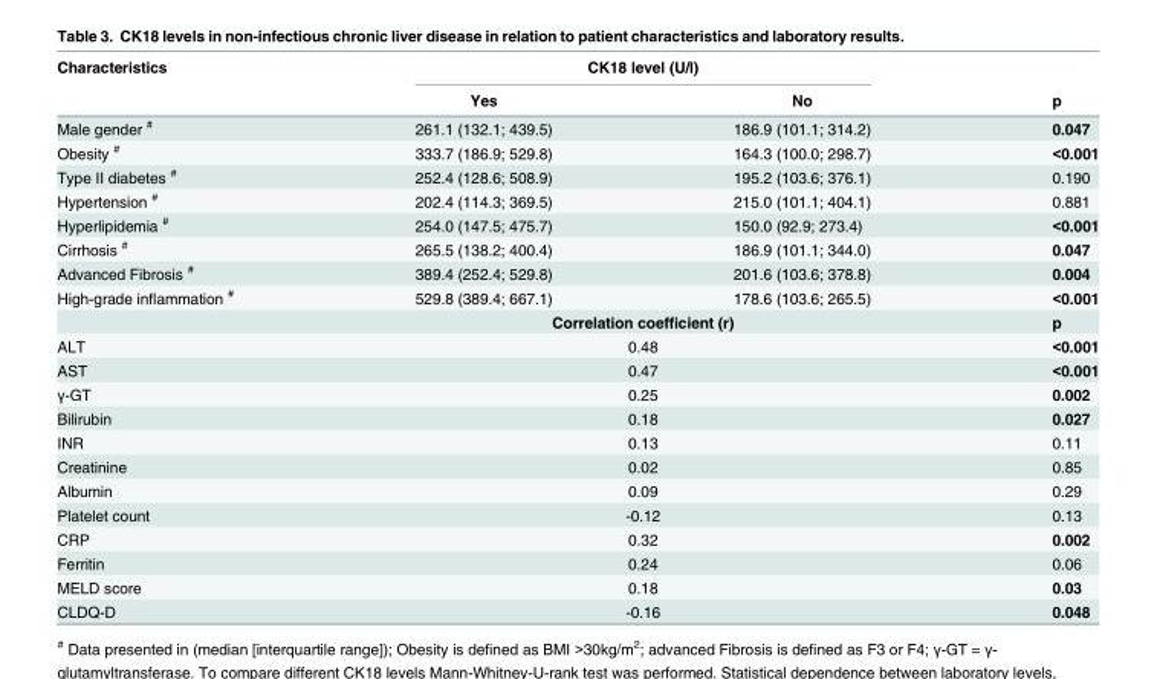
<table><thead><tr><td rowspan="2">Characteristics</td><td colspan="2">CK18 level (U/l)</td><td rowspan="2">p</td></tr><tr><td>Yes</td><td>No</td></tr></thead><tbody><tr><td>Male gender <sup>#</sup></td><td>261.1 (132.1; 439.5)</td><td>186.9 (101.1; 314.2)</td><td>0.047</td></tr><tr><td>Obesity <sup>#</sup></td><td>333.7 (186.9; 529.8)</td><td>164.3 (100.0; 298.7)</td><td>&lt;0.001</td></tr><tr><td>Type II diabetes <sup>#</sup></td><td>252.4 (128.6; 508.9)</td><td>195.2 (103.6; 376.1)</td><td>0.190</td></tr><tr><td>Hypertension <sup>#</sup></td><td>202.4 (114.3; 369.5)</td><td>215.0 (101.1; 404.1)</td><td>0.881</td></tr><tr><td>Hyperlipidemia <sup>#</sup></td><td>254.0 (147.5; 475.7)</td><td>150.0 (92.9; 273.4)</td><td>&lt;0.001</td></tr><tr><td>Cirrhosis <sup>#</sup></td><td>265.5 (138.2; 400.4)</td><td>186.9 (101.1; 344.0)</td><td>0.047</td></tr><tr><td>Advanced Fibrosis <sup>#</sup></td><td>389.4 (252.4; 529.8)</td><td>201.6 (103.6; 378.8)</td><td>0.004</td></tr><tr><td rowspan="2">High-grade inflammation <sup>#</sup></td><td>529.8 (389.4; 667.1)</td><td>178.6 (103.6; 265.5)</td><td>&lt;0.001</td></tr><tr><td colspan="2">Correlation coefficient (r)</td><td>p</td></tr><tr><td>ALT</td><td colspan="2">0.48</td><td>&lt;0.001</td></tr><tr><td>AST</td><td colspan="2">0.47</td><td>&lt;0.001</td></tr><tr><td>γ-GT</td><td colspan="2">0.25</td><td>0.002</td></tr><tr><td>Bilirubin</td><td colspan="2">0.18</td><td>0.027</td></tr><tr><td>INR</td><td colspan="2">0.13</td><td>0.11</td></tr><tr><td>Creatinine</td><td colspan="2">0.02</td><td>0.85</td></tr><tr><td>Albumin</td><td colspan="2">0.09</td><td>0.29</td></tr><tr><td>Platelet count</td><td colspan="2">-0.12</td><td>0.13</td></tr><tr><td>CRP</td><td colspan="2">0.32</td><td>0.002</td></tr><tr><td>Ferritin</td><td colspan="2">0.24</td><td>0.06</td></tr><tr><td>MELD score</td><td colspan="2">0.18</td><td>0.03</td></tr><tr><td>CLDQ-D</td><td colspan="2">-0.16</td><td>0.048</td></tr></tbody></table>